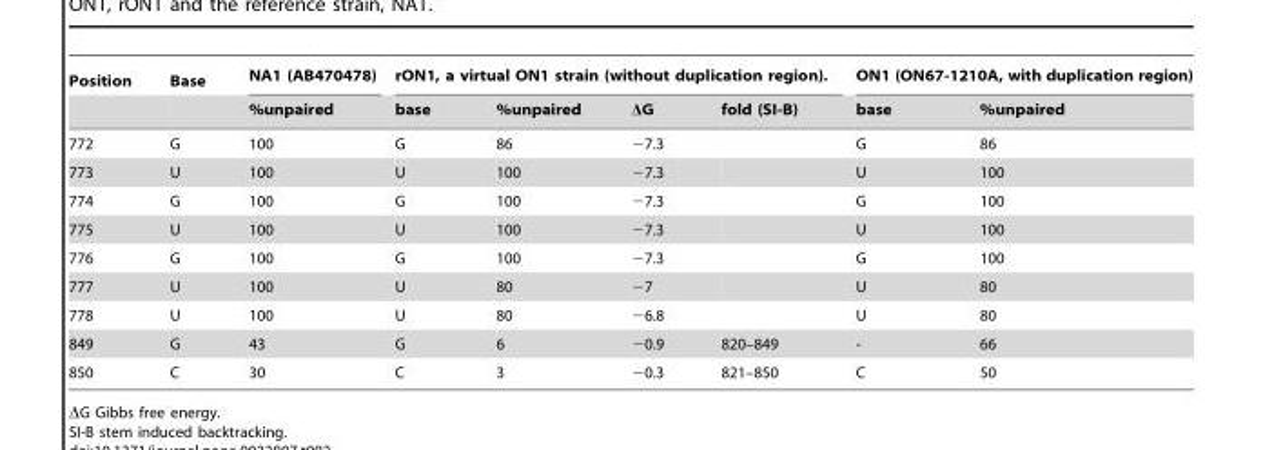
<table><thead><tr><td rowspan="2">Position</td><td rowspan="2">Base</td><td rowspan="2">NA1 (AB470478) %unpaired</td><td colspan="4">rON1, a virtual ON1 strain (without duplication region).</td><td colspan="2">ON1 (ON67-1210A, with duplication region)</td></tr><tr><td>base</td><td>%unpaired</td><td>ΔG</td><td>fold (SI-B)</td><td>base</td><td>%unpaired</td></tr></thead><tbody><tr><td>772</td><td>G</td><td>100</td><td>G</td><td>86</td><td>−7.3</td><td></td><td>G</td><td>86</td></tr><tr><td>773</td><td>U</td><td>100</td><td>U</td><td>100</td><td>−7.3</td><td></td><td>U</td><td>100</td></tr><tr><td>774</td><td>G</td><td>100</td><td>G</td><td>100</td><td>−7.3</td><td></td><td>G</td><td>100</td></tr><tr><td>775</td><td>U</td><td>100</td><td>U</td><td>100</td><td>−7.3</td><td></td><td>U</td><td>100</td></tr><tr><td>776</td><td>G</td><td>100</td><td>G</td><td>100</td><td>−7.3</td><td></td><td>G</td><td>100</td></tr><tr><td>777</td><td>U</td><td>100</td><td>U</td><td>80</td><td>−7</td><td></td><td>U</td><td>80</td></tr><tr><td>778</td><td>U</td><td>100</td><td>U</td><td>80</td><td>−6.8</td><td></td><td>U</td><td>80</td></tr><tr><td>849</td><td>G</td><td>43</td><td>G</td><td>6</td><td>−0.9</td><td>820–849</td><td>-</td><td>66</td></tr><tr><td>850</td><td>C</td><td>30</td><td>C</td><td>3</td><td>−0.3</td><td>821–850</td><td>C</td><td>50</td></tr></tbody></table>